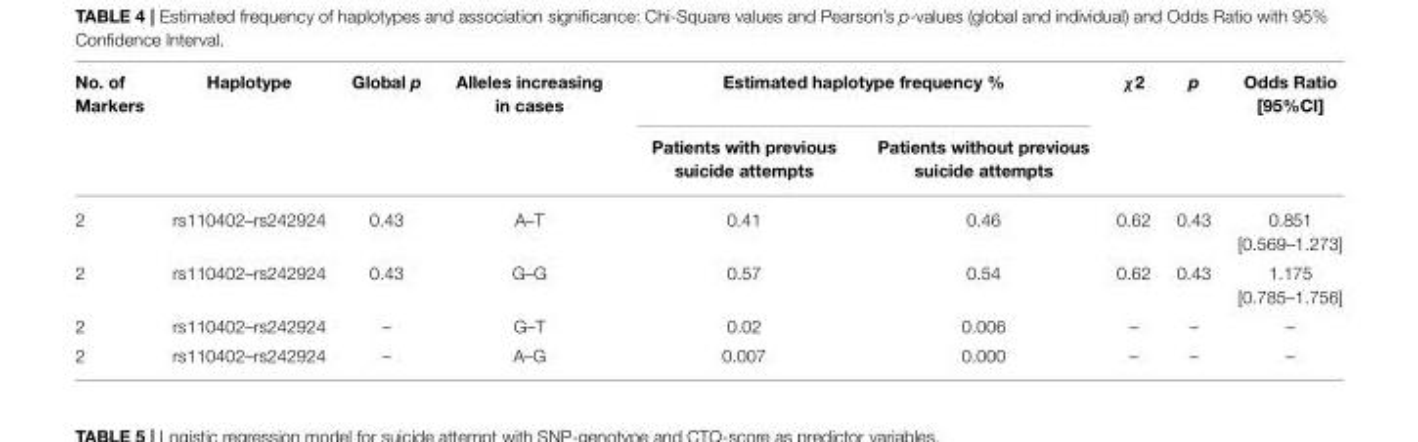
<table><thead><tr><td rowspan="2">No. of Markers</td><td rowspan="2">Haplotype</td><td rowspan="2">Global p</td><td rowspan="2">Alleles increasing in cases</td><td colspan="2">Estimated haplotype frequency %</td><td rowspan="2">χ2</td><td rowspan="2">p</td><td rowspan="2">Odds Ratio [95%CI]</td></tr><tr><td>Patients with previous suicide attempts</td><td>Patients without previous suicide attempts</td></tr></thead><tbody><tr><td>2</td><td>rs110402–rs242924</td><td>0.43</td><td>A–T</td><td>0.41</td><td>0.46</td><td>0.62</td><td>0.43</td><td>0.851 [0.569–1.273]</td></tr><tr><td>2</td><td>rs110402–rs242924</td><td>0.43</td><td>G–G</td><td>0.57</td><td>0.54</td><td>0.62</td><td>0.43</td><td>1.175 [0.785–1.756]</td></tr><tr><td>2</td><td>rs110402–rs242924</td><td>–</td><td>G–T</td><td>0.02</td><td>0.006</td><td>–</td><td>–</td><td>–</td></tr><tr><td>2</td><td>rs110402–rs242924</td><td>–</td><td>A–G</td><td>0.007</td><td>0.000</td><td>–</td><td>–</td><td>–</td></tr></tbody></table>